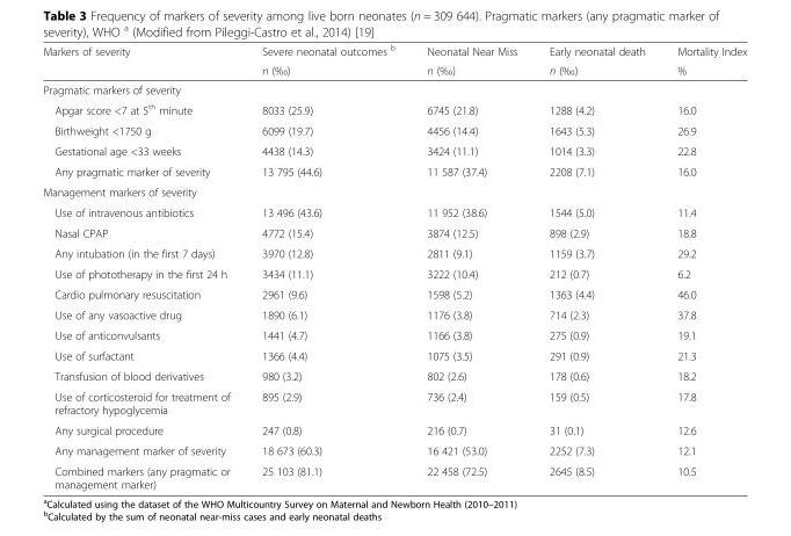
<table><thead><tr><td rowspan="2">Markers of severity</td><td rowspan="2">Severe neonatal outcomes <sup>b</sup> n (‰)</td><td rowspan="2">Neonatal Near Miss n (‰)</td><td rowspan="2">Early neonatal death n (‰)</td><td rowspan="2">Mortality Index %</td></tr><tr></tr></thead><tbody><tr><td colspan="5">Pragmatic markers of severity</td></tr><tr><td>Apgar score &lt;7 at 5<sup>th</sup> minute</td><td>8033 (25.9)</td><td>6745 (21.8)</td><td>1288 (4.2)</td><td>16.0</td></tr><tr><td>Birthweight &lt;1750 g</td><td>6099 (19.7)</td><td>4456 (14.4)</td><td>1643 (5.3)</td><td>26.9</td></tr><tr><td>Gestational age &lt;33 weeks</td><td>4438 (14.3)</td><td>3424 (11.1)</td><td>1014 (3.3)</td><td>22.8</td></tr><tr><td>Any pragmatic marker of severity</td><td>13 795 (44.6)</td><td>11 587 (37.4)</td><td>2208 (7.1)</td><td>16.0</td></tr><tr><td colspan="5">Management markers of severity</td></tr><tr><td>Use of intravenous antibiotics</td><td>13 496 (43.6)</td><td>11 952 (38.6)</td><td>1544 (5.0)</td><td>11.4</td></tr><tr><td>Nasal CPAP</td><td>4772 (15.4)</td><td>3874 (12.5)</td><td>898 (2.9)</td><td>18.8</td></tr><tr><td>Any intubation (in the first 7 days)</td><td>3970 (12.8)</td><td>2811 (9.1)</td><td>1159 (3.7)</td><td>29.2</td></tr><tr><td>Use of phototherapy in the first 24 h</td><td>3434 (11.1)</td><td>3222 (10.4)</td><td>212 (0.7)</td><td>6.2</td></tr><tr><td>Cardio pulmonary resuscitation</td><td>2961 (9.6)</td><td>1598 (5.2)</td><td>1363 (4.4)</td><td>46.0</td></tr><tr><td>Use of any vasoactive drug</td><td>1890 (6.1)</td><td>1176 (3.8)</td><td>714 (2.3)</td><td>37.8</td></tr><tr><td>Use of anticonvulsants</td><td>1441 (4.7)</td><td>1166 (3.8)</td><td>275 (0.9)</td><td>19.1</td></tr><tr><td>Use of surfactant</td><td>1366 (4.4)</td><td>1075 (3.5)</td><td>291 (0.9)</td><td>21.3</td></tr><tr><td>Transfusion of blood derivatives</td><td>980 (3.2)</td><td>802 (2.6)</td><td>178 (0.6)</td><td>18.2</td></tr><tr><td>Use of corticosteroid for treatment of refractory hypoglycemia</td><td>895 (2.9)</td><td>736 (2.4)</td><td>159 (0.5)</td><td>17.8</td></tr><tr><td>Any surgical procedure</td><td>247 (0.8)</td><td>216 (0.7)</td><td>31 (0.1)</td><td>12.6</td></tr><tr><td>Any management marker of severity</td><td>18 673 (60.3)</td><td>16 421 (53.0)</td><td>2252 (7.3)</td><td>12.1</td></tr><tr><td>Combined markers (any pragmatic or management marker)</td><td>25 103 (81.1)</td><td>22 458 (72.5)</td><td>2645 (8.5)</td><td>10.5</td></tr></tbody></table>